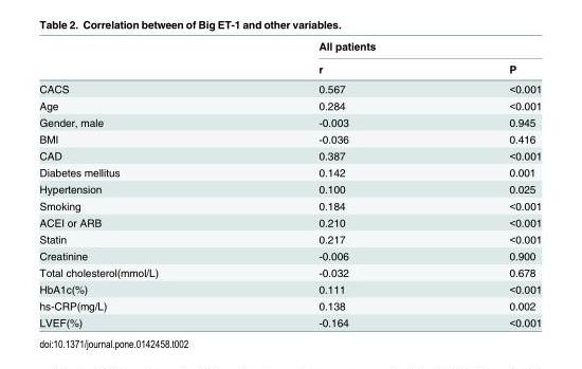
<table><thead><tr><td rowspan="2"></td><td colspan="2">All patients</td></tr><tr><td>r</td><td>P</td></tr></thead><tbody><tr><td>CACS</td><td>0.567</td><td>&lt;0.001</td></tr><tr><td>Age</td><td>0.284</td><td>&lt;0.001</td></tr><tr><td>Gender, male</td><td>-0.003</td><td>0.945</td></tr><tr><td>BMI</td><td>-0.036</td><td>0.416</td></tr><tr><td>CAD</td><td>0.387</td><td>&lt;0.001</td></tr><tr><td>Diabetes mellitus</td><td>0.142</td><td>0.001</td></tr><tr><td>Hypertension</td><td>0.100</td><td>0.025</td></tr><tr><td>Smoking</td><td>0.184</td><td>&lt;0.001</td></tr><tr><td>ACEI or ARB</td><td>0.210</td><td>&lt;0.001</td></tr><tr><td>Statin</td><td>0.217</td><td>&lt;0.001</td></tr><tr><td>Creatinine</td><td>-0.006</td><td>0.900</td></tr><tr><td>Total cholesterol(mmol/L)</td><td>-0.032</td><td>0.678</td></tr><tr><td>HbA1c(%)</td><td>0.111</td><td>&lt;0.001</td></tr><tr><td>hs-CRP(mg/L)</td><td>0.138</td><td>0.002</td></tr><tr><td>LVEF(%)</td><td>-0.164</td><td>&lt;0.001</td></tr></tbody></table>